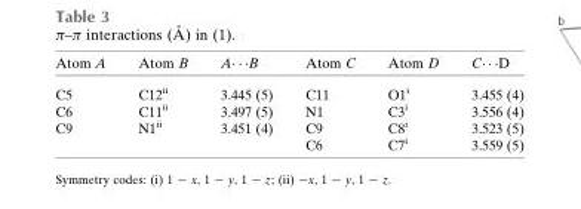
<table><thead><tr><td>Atom A</td><td>Atom B</td><td>A� � �B</td><td>Atom C</td><td>Atom D</td><td>C� � �D</td></tr></thead><tbody><tr><td>C5</td><td>C12<sup>ii</sup></td><td>3.445 (5)</td><td>C11</td><td>O1<sup>i</sup></td><td>3.455 (4)</td></tr><tr><td>C6</td><td>C11<sup>ii</sup></td><td>3.497 (5)</td><td>N1</td><td>C3<sup>i</sup></td><td>3.556 (4)</td></tr><tr><td rowspan="2">C9</td><td>N1<sup>ii</sup></td><td>3.451 (4)</td><td>C9</td><td>C8<sup>i</sup></td><td>3.523 (5)</td></tr><tr><td></td><td></td><td>C6</td><td>C7<sup>i</sup></td><td>3.559 (5)</td></tr></tbody></table>